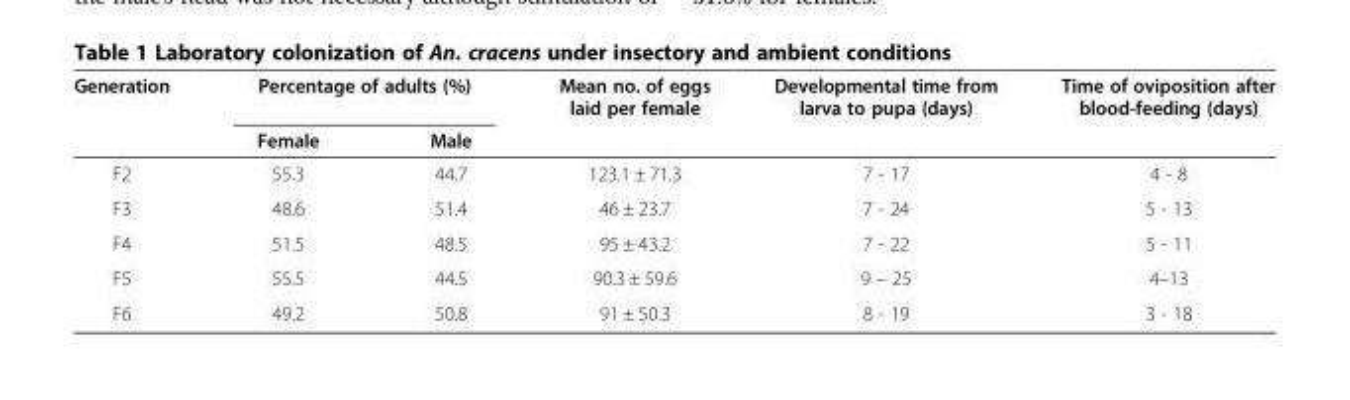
<table><thead><tr><td rowspan="2">Generation</td><td colspan="2">Percentage of adults (%)</td><td rowspan="2">Mean no. of eggs laid per female</td><td rowspan="2">Developmental time from larva to pupa (days)</td><td rowspan="2">Time of oviposition after blood-feeding (days)</td></tr><tr><td>Female</td><td>Male</td></tr></thead><tbody><tr><td>F2</td><td>55.3</td><td>44.7</td><td>123.1 ± 71.3</td><td>7 - 17</td><td>4 - 8</td></tr><tr><td>F3</td><td>48.6</td><td>51.4</td><td>46 ± 23.7</td><td>7 - 24</td><td>5 - 13</td></tr><tr><td>F4</td><td>51.5</td><td>48.5</td><td>95 ± 43.2</td><td>7 - 22</td><td>5 - 11</td></tr><tr><td>F5</td><td>55.5</td><td>44.5</td><td>90.3 ± 59.6</td><td>9 – 25</td><td>4–13</td></tr><tr><td>F6</td><td>49.2</td><td>50.8</td><td>91 ± 50.3</td><td>8 - 19</td><td>3 - 18</td></tr></tbody></table>